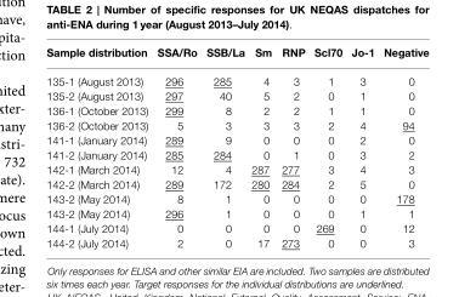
<table><thead><tr><td>Sample distribution</td><td>SSA/Ro</td><td>SSB/La</td><td>Sm</td><td>RNP</td><td>Scl70</td><td>Jo-1</td><td>Negative</td></tr></thead><tbody><tr><td>135-1 (August 2013)</td><td>296</td><td>285</td><td>4</td><td>3</td><td>1</td><td>3</td><td>0</td></tr><tr><td>135-2 (August 2013)</td><td>297</td><td>40</td><td>5</td><td>2</td><td>0</td><td>1</td><td>0</td></tr><tr><td>136-1 (October 2013)</td><td>299</td><td>8</td><td>2</td><td>2</td><td>1</td><td>1</td><td>0</td></tr><tr><td>136-2 (October 2013)</td><td>5</td><td>3</td><td>3</td><td>3</td><td>2</td><td>4</td><td>94</td></tr><tr><td>141-1 (January 2014)</td><td>289</td><td>9</td><td>0</td><td>0</td><td>0</td><td>2</td><td>0</td></tr><tr><td>141-2 (January 2014)</td><td>285</td><td>284</td><td>0</td><td>1</td><td>0</td><td>3</td><td>2</td></tr><tr><td>142-1 (March 2014)</td><td>12</td><td>4</td><td>287</td><td>277</td><td>3</td><td>4</td><td>3</td></tr><tr><td>142-2 (March 2014)</td><td>289</td><td>172</td><td>280</td><td>284</td><td>2</td><td>5</td><td>0</td></tr><tr><td>143-2 (May 2014)</td><td>8</td><td>1</td><td>0</td><td>0</td><td>0</td><td>0</td><td>178</td></tr><tr><td>143-2 (May 2014)</td><td>296</td><td>1</td><td>0</td><td>0</td><td>0</td><td>1</td><td>1</td></tr><tr><td>144-1 (July 2014)</td><td>0</td><td>0</td><td>0</td><td>0</td><td>269</td><td>0</td><td>12</td></tr><tr><td>144-2 (July 2014)</td><td>2</td><td>0</td><td>17</td><td>273</td><td>0</td><td>0</td><td>3</td></tr></tbody></table>